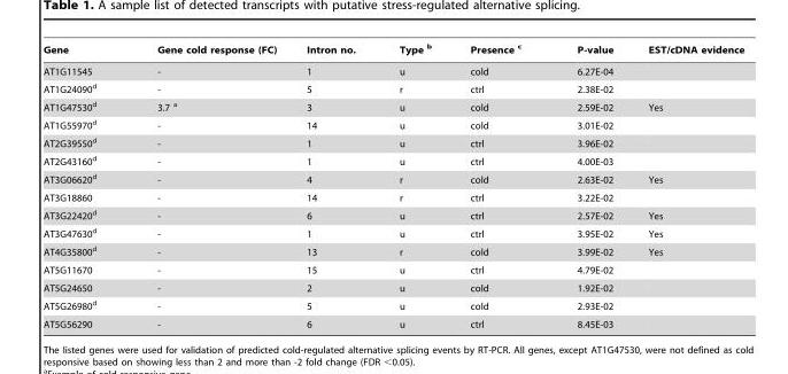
<table><thead><tr><td>Gene</td><td>Gene cold response (FC)</td><td>Intron no.</td><td>Type b</td><td>Presence c</td><td>P-value</td><td>EST/cDNA evidence</td></tr></thead><tbody><tr><td>AT1G11545</td><td>-</td><td>1</td><td>u</td><td>cold</td><td>6.27E-04</td><td></td></tr><tr><td>AT1G24090<sup>d</sup></td><td>-</td><td>5</td><td>r</td><td>ctrl</td><td>2.38E-02</td><td></td></tr><tr><td>AT1G47530<sup>d</sup></td><td>3.7 a</td><td>3</td><td>u</td><td>cold</td><td>2.59E-02</td><td>Yes</td></tr><tr><td>AT1G55970<sup>d</sup></td><td>-</td><td>14</td><td>u</td><td>cold</td><td>3.01E-02</td><td></td></tr><tr><td>AT2G39550<sup>d</sup></td><td>-</td><td>1</td><td>u</td><td>ctrl</td><td>3.96E-02</td><td></td></tr><tr><td>AT2G43160<sup>d</sup></td><td>-</td><td>1</td><td>u</td><td>ctrl</td><td>4.00E-03</td><td></td></tr><tr><td>AT3G06620<sup>d</sup></td><td>-</td><td>4</td><td>r</td><td>cold</td><td>2.63E-02</td><td>Yes</td></tr><tr><td>AT3G18860</td><td>-</td><td>14</td><td>r</td><td>ctrl</td><td>3.22E-02</td><td></td></tr><tr><td>AT3G22420<sup>d</sup></td><td>-</td><td>6</td><td>u</td><td>ctrl</td><td>2.57E-02</td><td>Yes</td></tr><tr><td>AT3G47630<sup>d</sup></td><td>-</td><td>1</td><td>u</td><td>ctrl</td><td>3.95E-02</td><td>Yes</td></tr><tr><td>AT4G35800<sup>d</sup></td><td>-</td><td>13</td><td>r</td><td>cold</td><td>3.99E-02</td><td>Yes</td></tr><tr><td>AT5G11670</td><td>-</td><td>15</td><td>u</td><td>ctrl</td><td>4.79E-02</td><td></td></tr><tr><td>AT5G24650</td><td>-</td><td>2</td><td>u</td><td>cold</td><td>1.92E-02</td><td></td></tr><tr><td>AT5G26980<sup>d</sup></td><td>-</td><td>5</td><td>u</td><td>cold</td><td>2.93E-02</td><td></td></tr><tr><td>AT5G56290</td><td>-</td><td>6</td><td>u</td><td>ctrl</td><td>8.45E-03</td><td></td></tr></tbody></table>